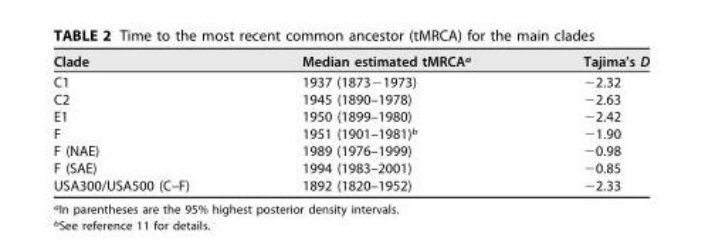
<table><thead><tr><td>Clade</td><td>Median estimated tMRCA<sup>a</sup></td><td>Tajima’s D</td></tr></thead><tbody><tr><td>C1</td><td>1937 (1873−1973)</td><td>−2.32</td></tr><tr><td>C2</td><td>1945 (1890–1978)</td><td>−2.63</td></tr><tr><td>E1</td><td>1950 (1899–1980)</td><td>−2.42</td></tr><tr><td>F</td><td>1951 (1901–1981)<sup>b</sup></td><td>−1.90</td></tr><tr><td>F (NAE)</td><td>1989 (1976–1999)</td><td>−0.98</td></tr><tr><td>F (SAE)</td><td>1994 (1983–2001)</td><td>−0.85</td></tr><tr><td>USA300/USA500 (C–F)</td><td>1892 (1820–1952)</td><td>−2.33</td></tr></tbody></table>